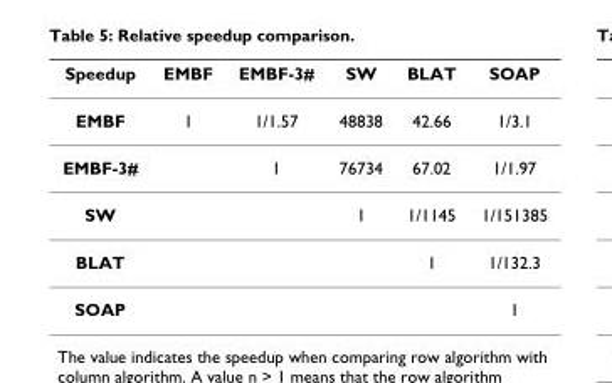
<table><thead><tr><td>Speedup</td><td>EMBF</td><td>EMBF-3#</td><td>SW</td><td>BLAT</td><td>SOAP</td></tr></thead><tbody><tr><td>EMBF</td><td>1</td><td>1/1.57</td><td>48838</td><td>42.66</td><td>1/3.1</td></tr><tr><td>EMBF-3#</td><td></td><td>1</td><td>76734</td><td>67.02</td><td>1/1.97</td></tr><tr><td>SW</td><td></td><td></td><td>1</td><td>1/1145</td><td>1/151385</td></tr><tr><td>BLAT</td><td></td><td></td><td></td><td>1</td><td>1/132.3</td></tr><tr><td>SOAP</td><td></td><td></td><td></td><td></td><td>1</td></tr></tbody></table>